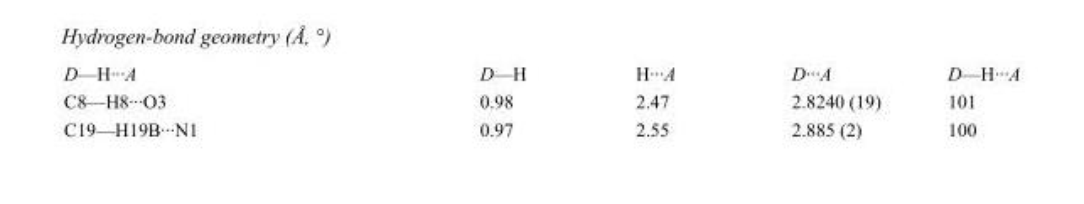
<table><tbody><tr><td>D—H···A</td><td>D—H</td><td>H···A</td><td>D···A</td><td>D—H···A</td></tr><tr><td>C8—H8···O3</td><td>0.98</td><td>2.47</td><td>2.8240 (19)</td><td>101</td></tr><tr><td>C19—H19B···N1</td><td>0.97</td><td>2.55</td><td>2.885 (2)</td><td>100</td></tr></tbody></table>